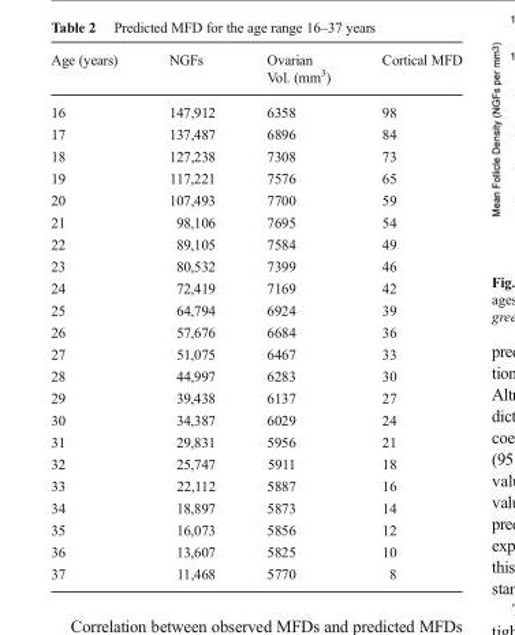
<table><thead><tr><td>Age (years)</td><td>NGFs</td><td>Ovarian Vol. (mm<sup>3</sup>)</td><td>Cortical MFD</td></tr></thead><tbody><tr><td>16</td><td>147,912</td><td>6358</td><td>98</td></tr><tr><td>17</td><td>137,487</td><td>6896</td><td>84</td></tr><tr><td>18</td><td>127,238</td><td>7308</td><td>73</td></tr><tr><td>19</td><td>117,221</td><td>7576</td><td>65</td></tr><tr><td>20</td><td>107,493</td><td>7700</td><td>59</td></tr><tr><td>21</td><td>98,106</td><td>7695</td><td>54</td></tr><tr><td>22</td><td>89,105</td><td>7584</td><td>49</td></tr><tr><td>23</td><td>80,532</td><td>7399</td><td>46</td></tr><tr><td>24</td><td>72,419</td><td>7169</td><td>42</td></tr><tr><td>25</td><td>64,794</td><td>6924</td><td>39</td></tr><tr><td>26</td><td>57,676</td><td>6684</td><td>36</td></tr><tr><td>27</td><td>51,075</td><td>6467</td><td>33</td></tr><tr><td>28</td><td>44,997</td><td>6283</td><td>30</td></tr><tr><td>29</td><td>39,438</td><td>6137</td><td>27</td></tr><tr><td>30</td><td>34,387</td><td>6029</td><td>24</td></tr><tr><td>31</td><td>29,831</td><td>5956</td><td>21</td></tr><tr><td>32</td><td>25,747</td><td>5911</td><td>18</td></tr><tr><td>33</td><td>22,112</td><td>5887</td><td>16</td></tr><tr><td>34</td><td>18,897</td><td>5873</td><td>14</td></tr><tr><td>35</td><td>16,073</td><td>5856</td><td>12</td></tr><tr><td>36</td><td>13,607</td><td>5825</td><td>10</td></tr><tr><td>37</td><td>11,468</td><td>5770</td><td>8</td></tr></tbody></table>